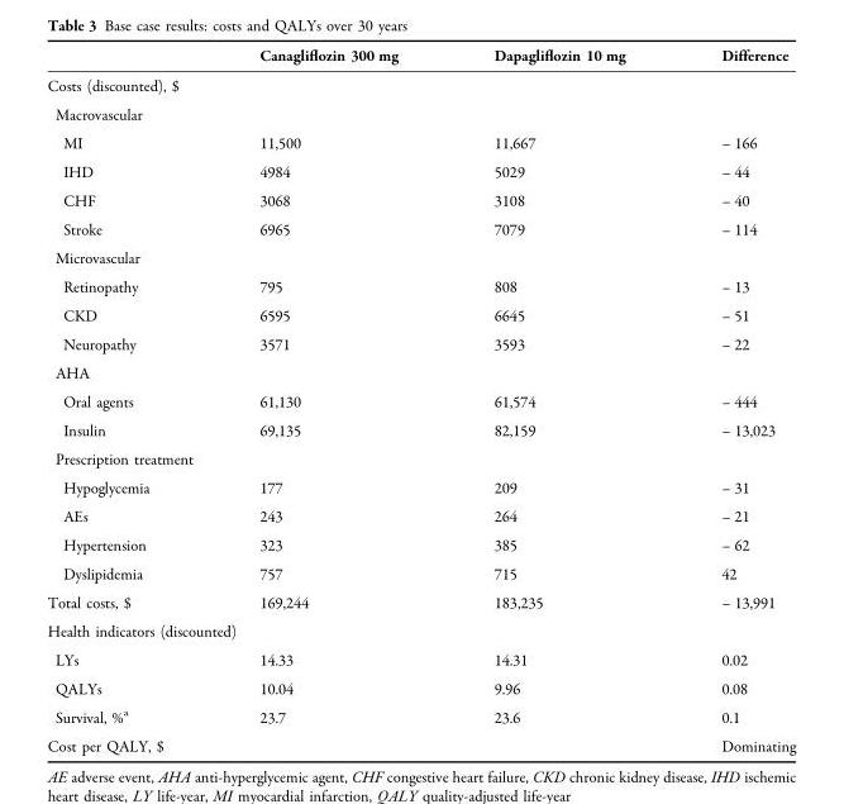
<table><thead><tr><td></td><td>Canagliflozin 300 mg</td><td>Dapagliflozin 10 mg</td><td>Difference</td></tr></thead><tbody><tr><td colspan="4">Costs (discounted), $</td></tr><tr><td colspan="4">Macrovascular</td></tr><tr><td>MI</td><td>11,500</td><td>11,667</td><td>– 166</td></tr><tr><td>IHD</td><td>4984</td><td>5029</td><td>– 44</td></tr><tr><td>CHF</td><td>3068</td><td>3108</td><td>– 40</td></tr><tr><td>Stroke</td><td>6965</td><td>7079</td><td>– 114</td></tr><tr><td colspan="4">Microvascular</td></tr><tr><td>Retinopathy</td><td>795</td><td>808</td><td>– 13</td></tr><tr><td>CKD</td><td>6595</td><td>6645</td><td>– 51</td></tr><tr><td>Neuropathy</td><td>3571</td><td>3593</td><td>– 22</td></tr><tr><td colspan="4">AHA</td></tr><tr><td>Oral agents</td><td>61,130</td><td>61,574</td><td>– 444</td></tr><tr><td>Insulin</td><td>69,135</td><td>82,159</td><td>– 13,023</td></tr><tr><td colspan="4">Prescription treatment</td></tr><tr><td>Hypoglycemia</td><td>177</td><td>209</td><td>– 31</td></tr><tr><td>AEs</td><td>243</td><td>264</td><td>– 21</td></tr><tr><td>Hypertension</td><td>323</td><td>385</td><td>– 62</td></tr><tr><td>Dyslipidemia</td><td>757</td><td>715</td><td>42</td></tr><tr><td>Total costs, $</td><td>169,244</td><td>183,235</td><td>– 13,991</td></tr><tr><td colspan="4">Health indicators (discounted)</td></tr><tr><td>LYs</td><td>14.33</td><td>14.31</td><td>0.02</td></tr><tr><td>QALYs</td><td>10.04</td><td>9.96</td><td>0.08</td></tr><tr><td>Survival, %<sup>a</sup></td><td>23.7</td><td>23.6</td><td>0.1</td></tr><tr><td>Cost per QALY, $</td><td></td><td></td><td>Dominating</td></tr></tbody></table>